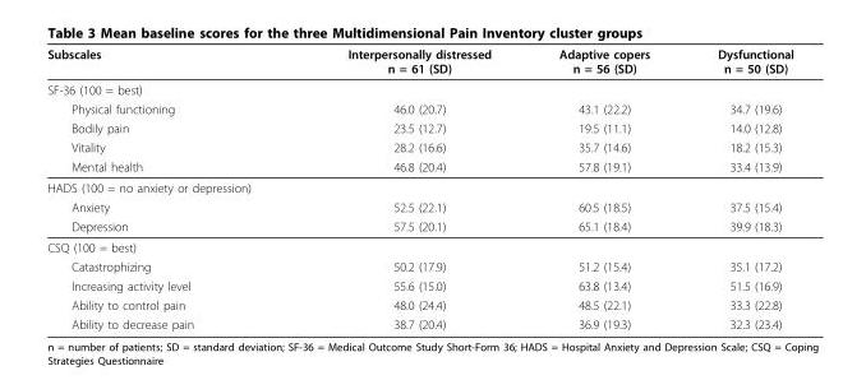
<table><thead><tr><td>Subscales</td><td>Interpersonally distressed n = 61 (SD)</td><td>Adaptive copers n = 56 (SD)</td><td>Dysfunctional n = 50 (SD)</td></tr></thead><tbody><tr><td colspan="4">SF-36 (100 = best)</td></tr><tr><td>Physical functioning</td><td>46.0 (20.7)</td><td>43.1 (22.2)</td><td>34.7 (19.6)</td></tr><tr><td>Bodily pain</td><td>23.5 (12.7)</td><td>19.5 (11.1)</td><td>14.0 (12.8)</td></tr><tr><td>Vitality</td><td>28.2 (16.6)</td><td>35.7 (14.6)</td><td>18.2 (15.3)</td></tr><tr><td>Mental health</td><td>46.8 (20.4)</td><td>57.8 (19.1)</td><td>33.4 (13.9)</td></tr><tr><td colspan="4">HADS (100 = no anxiety or depression)</td></tr><tr><td>Anxiety</td><td>52.5 (22.1)</td><td>60.5 (18.5)</td><td>37.5 (15.4)</td></tr><tr><td>Depression</td><td>57.5 (20.1)</td><td>65.1 (18.4)</td><td>39.9 (18.3)</td></tr><tr><td colspan="4">CSQ (100 = best)</td></tr><tr><td>Catastrophizing</td><td>50.2 (17.9)</td><td>51.2 (15.4)</td><td>35.1 (17.2)</td></tr><tr><td>Increasing activity level</td><td>55.6 (15.0)</td><td>63.8 (13.4)</td><td>51.5 (16.9)</td></tr><tr><td>Ability to control pain</td><td>48.0 (24.4)</td><td>48.5 (22.1)</td><td>33.3 (22.8)</td></tr><tr><td>Ability to decrease pain</td><td>38.7 (20.4)</td><td>36.9 (19.3)</td><td>32.3 (23.4)</td></tr></tbody></table>